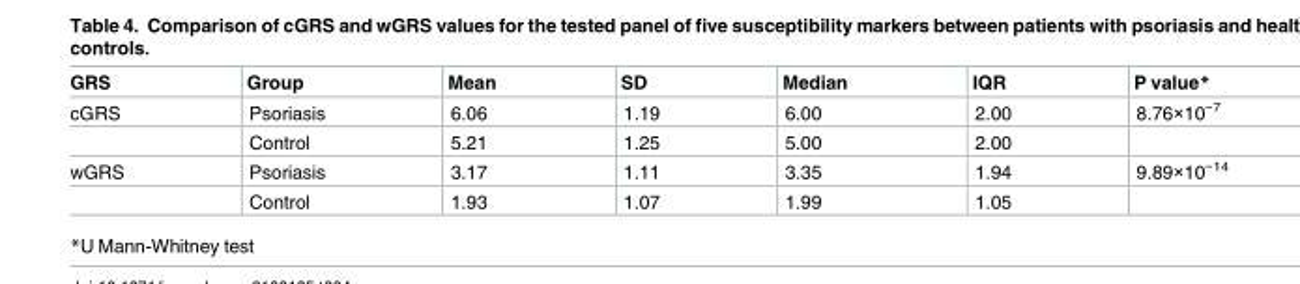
<table><thead><tr><td>GRS</td><td>Group</td><td>Mean</td><td>SD</td><td>Median</td><td>IQR</td><td>P value*</td></tr></thead><tbody><tr><td rowspan="2">cGRS</td><td>Psoriasis</td><td>6.06</td><td>1.19</td><td>6.00</td><td>2.00</td><td>8.76×10<sup>−7</sup></td></tr><tr><td>Control</td><td>5.21</td><td>1.25</td><td>5.00</td><td>2.00</td><td></td></tr><tr><td rowspan="2">wGRS</td><td>Psoriasis</td><td>3.17</td><td>1.11</td><td>3.35</td><td>1.94</td><td>9.89×10<sup>−14</sup></td></tr><tr><td>Control</td><td>1.93</td><td>1.07</td><td>1.99</td><td>1.05</td><td></td></tr></tbody></table>